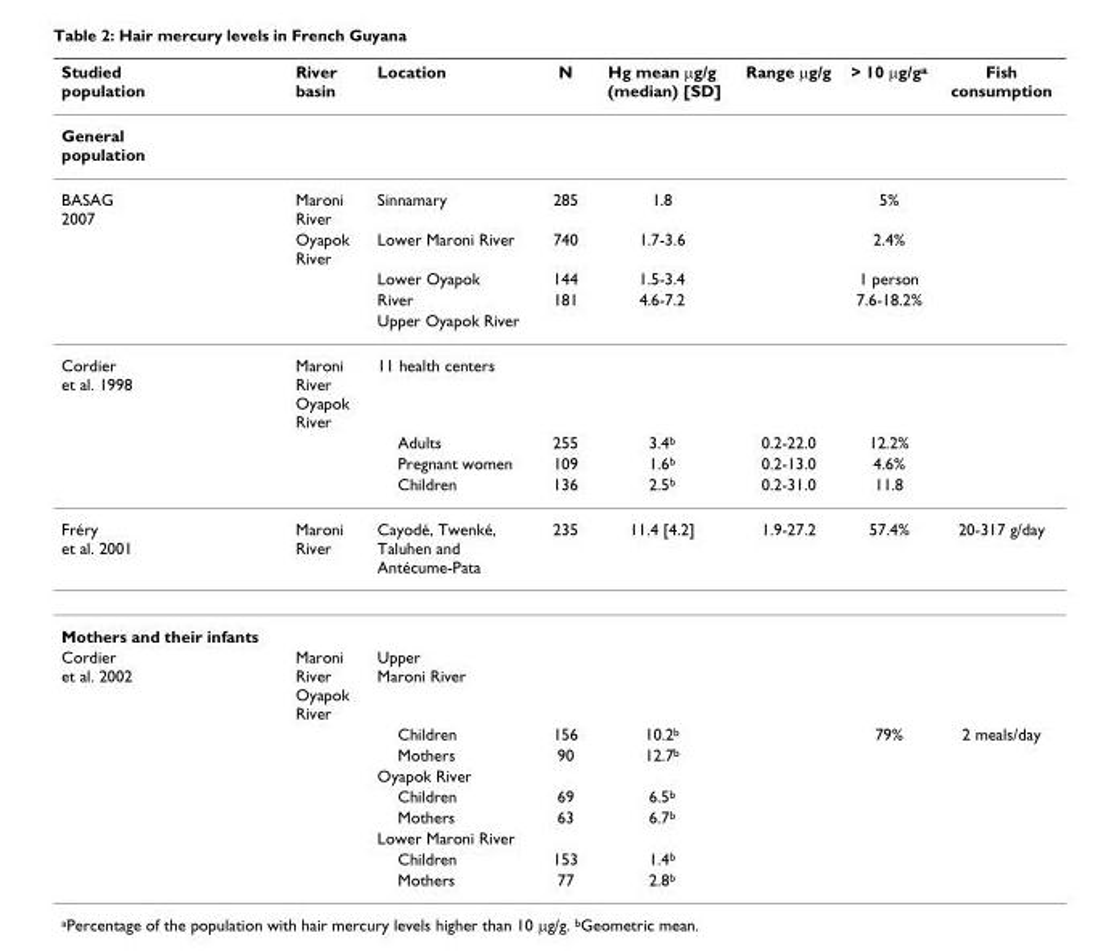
<table><thead><tr><td>Studied population</td><td>River basin</td><td>Location</td><td>N</td><td>Hg mean μg/g (median) [SD]</td><td>Range μg/g</td><td>&gt; 10 μg/g<sup>a</sup></td><td>Fish consumption</td></tr></thead><tbody><tr><td colspan="8">General population</td></tr><tr><td rowspan="5">BASAG 2007</td><td>Maroni River</td><td>Sinnamary</td><td>285</td><td>1.8</td><td></td><td>5%</td><td></td></tr><tr><td>Oyapok River</td><td>Lower Maroni River</td><td>740</td><td>1.7-3.6</td><td></td><td>2.4%</td><td></td></tr><tr><td></td><td>Lower Oyapok</td><td>144</td><td>1.5-3.4</td><td></td><td>1 person</td><td></td></tr><tr><td></td><td>River</td><td>181</td><td>4.6-7.2</td><td></td><td>7.6-18.2%</td><td></td></tr><tr><td></td><td>Upper Oyapok River</td><td></td><td></td><td></td><td></td><td></td></tr><tr><td rowspan="4">Cordier et al. 1998</td><td>Maroni River Oyapok River</td><td>11 health centers</td><td></td><td></td><td></td><td></td><td></td></tr><tr><td></td><td>Adults</td><td>255</td><td>3.4<sup>b</sup></td><td>0.2-22.0</td><td>12.2%</td><td></td></tr><tr><td></td><td>Pregnant women</td><td>109</td><td>1.6<sup>b</sup></td><td>0.2-13.0</td><td>4.6%</td><td></td></tr><tr><td></td><td>Children</td><td>136</td><td>2.5<sup>b</sup></td><td>0.2-31.0</td><td>11.8</td><td></td></tr><tr><td>Fréry et al. 2001</td><td>Maroni River</td><td>Cayodé, Twenké, Taluhen and Antécume-Pata</td><td>235</td><td>11.4 [4.2]</td><td>1.9-27.2</td><td>57.4%</td><td>20-317 g/day</td></tr><tr><td colspan="8">Mothers and their infants</td></tr><tr><td rowspan="9">Cordier et al. 2002</td><td>Maroni River Oyapok River</td><td>Upper Maroni River</td><td></td><td></td><td></td><td></td><td></td></tr><tr><td></td><td>Children</td><td>156</td><td>10.2<sup>b</sup></td><td></td><td>79%</td><td>2 meals/day</td></tr><tr><td></td><td>Mothers</td><td>90</td><td>12.7<sup>b</sup></td><td></td><td></td><td></td></tr><tr><td></td><td>Oyapok River</td><td></td><td></td><td></td><td></td><td></td></tr><tr><td></td><td>Children</td><td>69</td><td>6.5<sup>b</sup></td><td></td><td></td><td></td></tr><tr><td></td><td>Mothers</td><td>63</td><td>6.7<sup>b</sup></td><td></td><td></td><td></td></tr><tr><td></td><td>Lower Maroni River</td><td></td><td></td><td></td><td></td><td></td></tr><tr><td></td><td>Children</td><td>153</td><td>1.4<sup>b</sup></td><td></td><td></td><td></td></tr><tr><td></td><td>Mothers</td><td>77</td><td>2.8<sup>b</sup></td><td></td><td></td><td></td></tr></tbody></table>